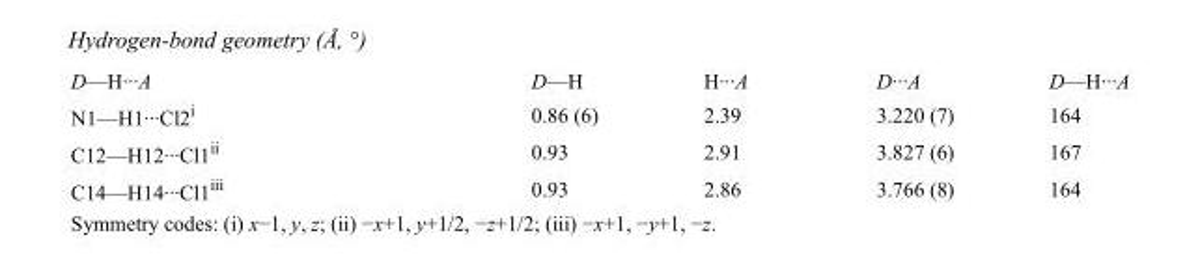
<table><tbody><tr><td>D—H···A</td><td>D—H</td><td>H···A</td><td>D···A</td><td>D—H···A</td></tr><tr><td>N1—H1···Cl2<sup>i</sup></td><td>0.86 (6)</td><td>2.39</td><td>3.220 (7)</td><td>164</td></tr><tr><td>C12—H12···Cl1<sup>ii</sup></td><td>0.93</td><td>2.91</td><td>3.827 (6)</td><td>167</td></tr><tr><td>C14—H14···Cl1<sup>iii</sup></td><td>0.93</td><td>2.86</td><td>3.766 (8)</td><td>164</td></tr></tbody></table>